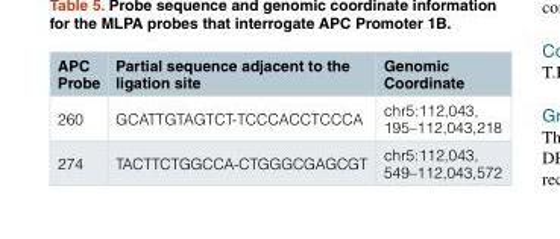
<table><thead><tr><td>APC Probe</td><td>Partial sequence adjacent to the ligation site</td><td>Genomic Coordinate</td></tr></thead><tbody><tr><td>260</td><td>GCATTGTAGTCT-TCCCACCTCCCA</td><td>chr5:112,043, 195–112,043,218</td></tr><tr><td>274</td><td>TACTTCTGGCCA-CTGGGCGAGCGT</td><td>chr5:112,043, 549–112,043,572</td></tr></tbody></table>